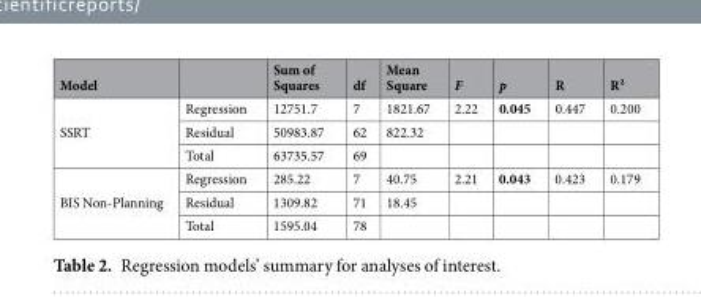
<table><thead><tr><td>Model</td><td></td><td>Sum of Squares</td><td>df</td><td>Mean Square</td><td>F</td><td>p</td><td>R</td><td>R²</td></tr></thead><tbody><tr><td rowspan="3">SSRT</td><td>Regression</td><td>12751.7</td><td>7</td><td>1821.67</td><td>2.22</td><td>0.045</td><td>0.447</td><td>0.200</td></tr><tr><td>Residual</td><td>50983.87</td><td>62</td><td>822.32</td><td></td><td></td><td></td><td></td></tr><tr><td>Total</td><td>63735.57</td><td>69</td><td></td><td></td><td></td><td></td><td></td></tr><tr><td rowspan="3">BIS Non-Planning</td><td>Regression</td><td>285.22</td><td>7</td><td>40.75</td><td>2.21</td><td>0.043</td><td>0.423</td><td>0.179</td></tr><tr><td>Residual</td><td>1309.82</td><td>71</td><td>18.45</td><td></td><td></td><td></td><td></td></tr><tr><td>Total</td><td>1595.04</td><td>78</td><td></td><td></td><td></td><td></td><td></td></tr></tbody></table>